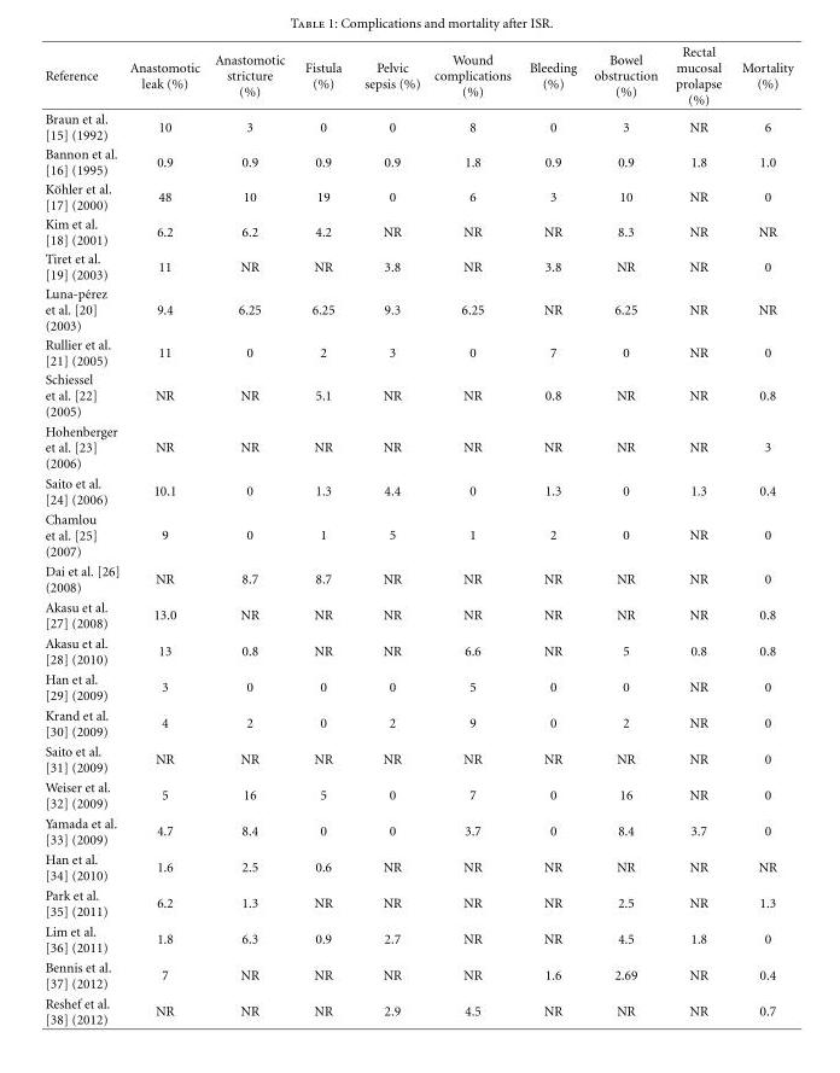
<table><thead><tr><td>Reference</td><td>Anastomotic leak (%)</td><td>Anastomotic stricture (%)</td><td>Fistula (%)</td><td>Pelvic sepsis (%)</td><td>Wound complications (%)</td><td>Bleeding (%)</td><td>Bowel obstruction (%)</td><td>Rectal mucosal prolapse (%)</td><td>Mortality (%)</td></tr></thead><tbody><tr><td>Braun et al. [15] (1992)</td><td>10</td><td>3</td><td>0</td><td>0</td><td>8</td><td>0</td><td>3</td><td>NR</td><td>6</td></tr><tr><td>Bannon et al. [16] (1995)</td><td>0.9</td><td>0.9</td><td>0.9</td><td>0.9</td><td>1.8</td><td>0.9</td><td>0.9</td><td>1.8</td><td>1.0</td></tr><tr><td>K¨ohler et al. [17] (2000)</td><td>48</td><td>10</td><td>19</td><td>0</td><td>6</td><td>3</td><td>10</td><td>NR</td><td>0</td></tr><tr><td>Kim et al. [18] (2001)</td><td>6.2</td><td>6.2</td><td>4.2</td><td>NR</td><td>NR</td><td>NR</td><td>8.3</td><td>NR</td><td>NR</td></tr><tr><td>Tiret et al. [19] (2003)</td><td>11</td><td>NR</td><td>NR</td><td>3.8</td><td>NR</td><td>3.8</td><td>NR</td><td>NR</td><td>0</td></tr><tr><td>Luna-p´erez et al. [20] (2003)</td><td>9.4</td><td>6.25</td><td>6.25</td><td>9.3</td><td>6.25</td><td>NR</td><td>6.25</td><td>NR</td><td>NR</td></tr><tr><td>Rullier et al. [21] (2005)</td><td>11</td><td>0</td><td>2</td><td>3</td><td>0</td><td>7</td><td>0</td><td>NR</td><td>0</td></tr><tr><td>Schiessel et al. [22] (2005)</td><td>NR</td><td>NR</td><td>5.1</td><td>NR</td><td>NR</td><td>0.8</td><td>NR</td><td>NR</td><td>0.8</td></tr><tr><td>Hohenberger et al. [23] (2006)</td><td>NR</td><td>NR</td><td>NR</td><td>NR</td><td>NR</td><td>NR</td><td>NR</td><td>NR</td><td>3</td></tr><tr><td>Saito et al. [24] (2006)</td><td>10.1</td><td>0</td><td>1.3</td><td>4.4</td><td>0</td><td>1.3</td><td>0</td><td>1.3</td><td>0.4</td></tr><tr><td>Chamlou et al. [25] (2007)</td><td>9</td><td>0</td><td>1</td><td>5</td><td>1</td><td>2</td><td>0</td><td>NR</td><td>0</td></tr><tr><td>Dai et al. [26] (2008)</td><td>NR</td><td>8.7</td><td>8.7</td><td>NR</td><td>NR</td><td>NR</td><td>NR</td><td>NR</td><td>0</td></tr><tr><td>Akasu et al. [27] (2008)</td><td>13.0</td><td>NR</td><td>NR</td><td>NR</td><td>NR</td><td>NR</td><td>NR</td><td>NR</td><td>0.8</td></tr><tr><td>Akasu et al. [28] (2010)</td><td>13</td><td>0.8</td><td>NR</td><td>NR</td><td>6.6</td><td>NR</td><td>5</td><td>0.8</td><td>0.8</td></tr><tr><td>Han et al. [29] (2009)</td><td>3</td><td>0</td><td>0</td><td>0</td><td>5</td><td>0</td><td>0</td><td>NR</td><td>0</td></tr><tr><td>Krand et al. [30] (2009)</td><td>4</td><td>2</td><td>0</td><td>2</td><td>9</td><td>0</td><td>2</td><td>NR</td><td>0</td></tr><tr><td>Saito et al. [31] (2009)</td><td>NR</td><td>NR</td><td>NR</td><td>NR</td><td>NR</td><td>NR</td><td>NR</td><td>NR</td><td>0</td></tr><tr><td>Weiser et al. [32] (2009)</td><td>5</td><td>16</td><td>5</td><td>0</td><td>7</td><td>0</td><td>16</td><td>NR</td><td>0</td></tr><tr><td>Yamada et al. [33] (2009)</td><td>4.7</td><td>8.4</td><td>0</td><td>0</td><td>3.7</td><td>0</td><td>8.4</td><td>3.7</td><td>0</td></tr><tr><td>Han et al. [34] (2010)</td><td>1.6</td><td>2.5</td><td>0.6</td><td>NR</td><td>NR</td><td>NR</td><td>NR</td><td>NR</td><td>NR</td></tr><tr><td>Park et al. [35] (2011)</td><td>6.2</td><td>1.3</td><td>NR</td><td>NR</td><td>NR</td><td>NR</td><td>2.5</td><td>NR</td><td>1.3</td></tr><tr><td>Lim et al. [36] (2011)</td><td>1.8</td><td>6.3</td><td>0.9</td><td>2.7</td><td>NR</td><td>NR</td><td>4.5</td><td>1.8</td><td>0</td></tr><tr><td>Bennis et al. [37] (2012)</td><td>7</td><td>NR</td><td>NR</td><td>NR</td><td>NR</td><td>1.6</td><td>2.69</td><td>NR</td><td>0.4</td></tr><tr><td>Reshef et al. [38] (2012)</td><td>NR</td><td>NR</td><td>NR</td><td>2.9</td><td>4.5</td><td>NR</td><td>NR</td><td>NR</td><td>0.7</td></tr></tbody></table>